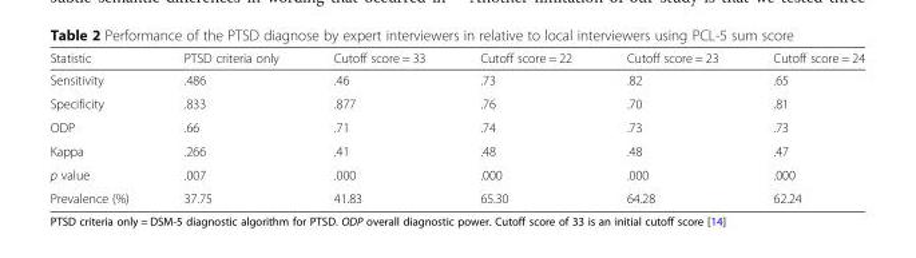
<table><thead><tr><td>Statistic</td><td>PTSD criteria only</td><td>Cutoff score = 33</td><td>Cutoff score = 22</td><td>Cutoff score = 23</td><td>Cutoff score = 24</td></tr></thead><tbody><tr><td>Sensitivity</td><td>.486</td><td>.46</td><td>.73</td><td>.82</td><td>.65</td></tr><tr><td>Specificity</td><td>.833</td><td>.877</td><td>.76</td><td>.70</td><td>.81</td></tr><tr><td>ODP</td><td>.66</td><td>.71</td><td>.74</td><td>.73</td><td>.73</td></tr><tr><td>Kappa</td><td>.266</td><td>.41</td><td>.48</td><td>.48</td><td>.47</td></tr><tr><td>p value</td><td>.007</td><td>.000</td><td>.000</td><td>.000</td><td>.000</td></tr><tr><td>Prevalence (%)</td><td>37.75</td><td>41.83</td><td>65.30</td><td>64.28</td><td>62.24</td></tr></tbody></table>